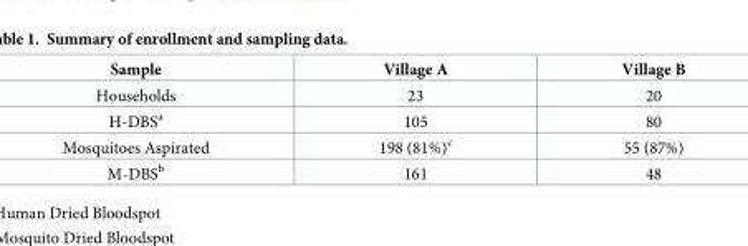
<table><thead><tr><td>Sample</td><td>Village A</td><td>Village B</td></tr></thead><tbody><tr><td>Households</td><td>23</td><td>20</td></tr><tr><td>H-DBS<sup>a</sup></td><td>105</td><td>80</td></tr><tr><td>Mosquitoes Aspirated</td><td>198 (81%)<sup>c</sup></td><td>55 (87%)</td></tr><tr><td>M-DBS<sup>b</sup></td><td>161</td><td>48</td></tr></tbody></table>